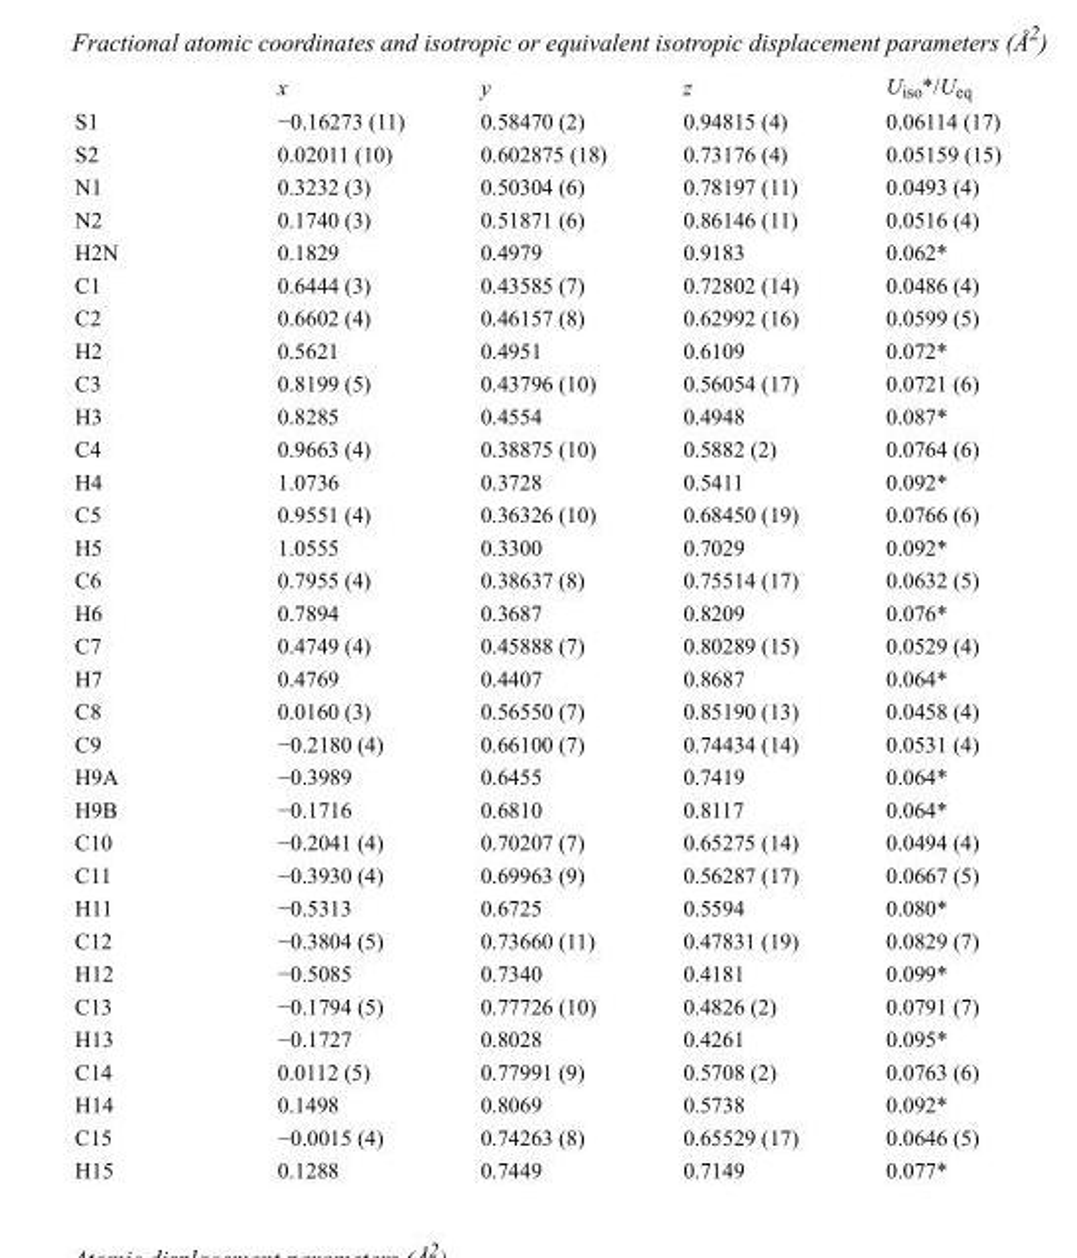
<table><thead><tr><td></td><td>x</td><td>y</td><td>z</td><td>U<sub>iso</sub>*/U<sub>eq</sub></td></tr></thead><tbody><tr><td>S1</td><td>−0.16273 (11)</td><td>0.58470 (2)</td><td>0.94815 (4)</td><td>0.06114 (17)</td></tr><tr><td>S2</td><td>0.02011 (10)</td><td>0.602875 (18)</td><td>0.73176 (4)</td><td>0.05159 (15)</td></tr><tr><td>N1</td><td>0.3232 (3)</td><td>0.50304 (6)</td><td>0.78197 (11)</td><td>0.0493 (4)</td></tr><tr><td>N2</td><td>0.1740 (3)</td><td>0.51871 (6)</td><td>0.86146 (11)</td><td>0.0516 (4)</td></tr><tr><td>H2N</td><td>0.1829</td><td>0.4979</td><td>0.9183</td><td>0.062*</td></tr><tr><td>C1</td><td>0.6444 (3)</td><td>0.43585 (7)</td><td>0.72802 (14)</td><td>0.0486 (4)</td></tr><tr><td>C2</td><td>0.6602 (4)</td><td>0.46157 (8)</td><td>0.62992 (16)</td><td>0.0599 (5)</td></tr><tr><td>H2</td><td>0.5621</td><td>0.4951</td><td>0.6109</td><td>0.072*</td></tr><tr><td>C3</td><td>0.8199 (5)</td><td>0.43796 (10)</td><td>0.56054 (17)</td><td>0.0721 (6)</td></tr><tr><td>H3</td><td>0.8285</td><td>0.4554</td><td>0.4948</td><td>0.087*</td></tr><tr><td>C4</td><td>0.9663 (4)</td><td>0.38875 (10)</td><td>0.5882 (2)</td><td>0.0764 (6)</td></tr><tr><td>H4</td><td>1.0736</td><td>0.3728</td><td>0.5411</td><td>0.092*</td></tr><tr><td>C5</td><td>0.9551 (4)</td><td>0.36326 (10)</td><td>0.68450 (19)</td><td>0.0766 (6)</td></tr><tr><td>H5</td><td>1.0555</td><td>0.3300</td><td>0.7029</td><td>0.092*</td></tr><tr><td>C6</td><td>0.7955 (4)</td><td>0.38637 (8)</td><td>0.75514 (17)</td><td>0.0632 (5)</td></tr><tr><td>H6</td><td>0.7894</td><td>0.3687</td><td>0.8209</td><td>0.076*</td></tr><tr><td>C7</td><td>0.4749 (4)</td><td>0.45888 (7)</td><td>0.80289 (15)</td><td>0.0529 (4)</td></tr><tr><td>H7</td><td>0.4769</td><td>0.4407</td><td>0.8687</td><td>0.064*</td></tr><tr><td>C8</td><td>0.0160 (3)</td><td>0.56550 (7)</td><td>0.85190 (13)</td><td>0.0458 (4)</td></tr><tr><td>C9</td><td>−0.2180 (4)</td><td>0.66100 (7)</td><td>0.74434 (14)</td><td>0.0531 (4)</td></tr><tr><td>H9A</td><td>−0.3989</td><td>0.6455</td><td>0.7419</td><td>0.064*</td></tr><tr><td>H9B</td><td>−0.1716</td><td>0.6810</td><td>0.8117</td><td>0.064*</td></tr><tr><td>C10</td><td>−0.2041 (4)</td><td>0.70207 (7)</td><td>0.65275 (14)</td><td>0.0494 (4)</td></tr><tr><td>C11</td><td>−0.3930 (4)</td><td>0.69963 (9)</td><td>0.56287 (17)</td><td>0.0667 (5)</td></tr><tr><td>H11</td><td>−0.5313</td><td>0.6725</td><td>0.5594</td><td>0.080*</td></tr><tr><td>C12</td><td>−0.3804 (5)</td><td>0.73660 (11)</td><td>0.47831 (19)</td><td>0.0829 (7)</td></tr><tr><td>H12</td><td>−0.5085</td><td>0.7340</td><td>0.4181</td><td>0.099*</td></tr><tr><td>C13</td><td>−0.1794 (5)</td><td>0.77726 (10)</td><td>0.4826 (2)</td><td>0.0791 (7)</td></tr><tr><td>H13</td><td>−0.1727</td><td>0.8028</td><td>0.4261</td><td>0.095*</td></tr><tr><td>C14</td><td>0.0112 (5)</td><td>0.77991 (9)</td><td>0.5708 (2)</td><td>0.0763 (6)</td></tr><tr><td>H14</td><td>0.1498</td><td>0.8069</td><td>0.5738</td><td>0.092*</td></tr><tr><td>C15</td><td>−0.0015 (4)</td><td>0.74263 (8)</td><td>0.65529 (17)</td><td>0.0646 (5)</td></tr><tr><td>H15</td><td>0.1288</td><td>0.7449</td><td>0.7149</td><td>0.077*</td></tr></tbody></table>